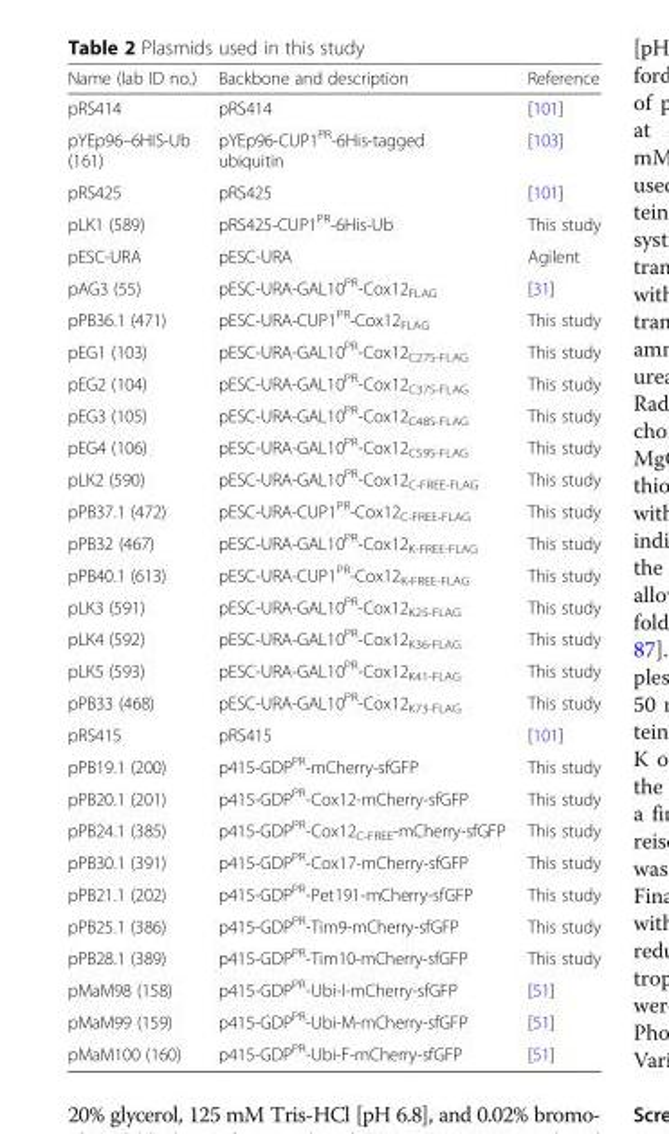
<table><thead><tr><td>Name (lab ID no.)</td><td>Backbone and description</td><td>Reference</td></tr></thead><tbody><tr><td>pRS414</td><td>pRS414</td><td>[101]</td></tr><tr><td>pYEp96–6HIS-Ub (161)</td><td>pYEp96-CUP1<sup>PR</sup>-6His-tagged ubiquitin</td><td>[103]</td></tr><tr><td>pRS425</td><td>pRS425</td><td>[101]</td></tr><tr><td>pLK1 (589)</td><td>pRS425-CUP1<sup>PR</sup>-6His-Ub</td><td>This study</td></tr><tr><td>pESC-URA</td><td>pESC-URA</td><td>Agilent</td></tr><tr><td>pAG3 (55)</td><td>pESC-URA-GAL10<sup>PR</sup>-Cox12<sub>FLAG</sub></td><td>[31]</td></tr><tr><td>pPB36.1 (471)</td><td>pESC-URA-CUP1<sup>PR</sup>-Cox12<sub>FLAG</sub></td><td>This study</td></tr><tr><td>pEG1 (103)</td><td>pESC-URA-GAL10<sup>PR</sup>-Cox12<sub>C27S-FLAG</sub></td><td>This study</td></tr><tr><td>pEG2 (104)</td><td>pESC-URA-GAL10<sup>PR</sup>-Cox12<sub>C37S-FLAG</sub></td><td>This study</td></tr><tr><td>pEG3 (105)</td><td>pESC-URA-GAL10<sup>PR</sup>-Cox12<sub>C48S-FLAG</sub></td><td>This study</td></tr><tr><td>pEG4 (106)</td><td>pESC-URA-GAL10<sup>PR</sup>-Cox12<sub>C59S-FLAG</sub></td><td>This study</td></tr><tr><td>pLK2 (590)</td><td>pESC-URA-GAL10<sup>PR</sup>-Cox12<sub>C-FREE-FLAG</sub></td><td>This study</td></tr><tr><td>pPB37.1 (472)</td><td>pESC-URA-CUP1<sup>PR</sup>-Cox12<sub>C-FREE-FLAG</sub></td><td>This study</td></tr><tr><td>pPB32 (467)</td><td>pESC-URA-GAL10<sup>PR</sup>-Cox12<sub>K-FREE-FLAG</sub></td><td>This study</td></tr><tr><td>pPB40.1 (613)</td><td>pESC-URA-CUP1<sup>PR</sup>-Cox12<sub>K-FREE-FLAG</sub></td><td>This study</td></tr><tr><td>pLK3 (591)</td><td>pESC-URA-GAL10<sup>PR</sup>-Cox12<sub>K25-FLAG</sub></td><td>This study</td></tr><tr><td>pLK4 (592)</td><td>pESC-URA-GAL10<sup>PR</sup>-Cox12<sub>K36-FLAG</sub></td><td>This study</td></tr><tr><td>pLK5 (593)</td><td>pESC-URA-GAL10<sup>PR</sup>-Cox12<sub>K41-FLAG</sub></td><td>This study</td></tr><tr><td>pPB33 (468)</td><td>pESC-URA-GAL10<sup>PR</sup>-Cox12<sub>K73-FLAG</sub></td><td>This study</td></tr><tr><td>pRS415</td><td>pRS415</td><td>[101]</td></tr><tr><td>pPB19.1 (200)</td><td>p415-GDP<sup>PR</sup>-mCherry-sfGFP</td><td>This study</td></tr><tr><td>pPB20.1 (201)</td><td>p415-GDP<sup>PR</sup>-Cox12-mCherry-sfGFP</td><td>This study</td></tr><tr><td>pPB24.1 (385)</td><td>p415-GDP<sup>PR</sup>-Cox12<sub>C-FREE</sub>-mCherry-sfGFP</td><td>This study</td></tr><tr><td>pPB30.1 (391)</td><td>p415-GDP<sup>PR</sup>-Cox17-mCherry-sfGFP</td><td>This study</td></tr><tr><td>pPB21.1 (202)</td><td>p415-GDP<sup>PR</sup>-Pet191-mCherry-sfGFP</td><td>This study</td></tr><tr><td>pPB25.1 (386)</td><td>p415-GDP<sup>PR</sup>-Tim9-mCherry-sfGFP</td><td>This study</td></tr><tr><td>pPB28.1 (389)</td><td>p415-GDP<sup>PR</sup>-Tim10-mCherry-sfGFP</td><td>This study</td></tr><tr><td>pMaM98 (158)</td><td>p415-GDP<sup>PR</sup>-Ubi-I-mCherry-sfGFP</td><td>[51]</td></tr><tr><td>pMaM99 (159)</td><td>p415-GDP<sup>PR</sup>-Ubi-M-mCherry-sfGFP</td><td>[51]</td></tr><tr><td>pMaM100 (160)</td><td>p415-GDP<sup>PR</sup>-Ubi-F-mCherry-sfGFP</td><td>[51]</td></tr></tbody></table>